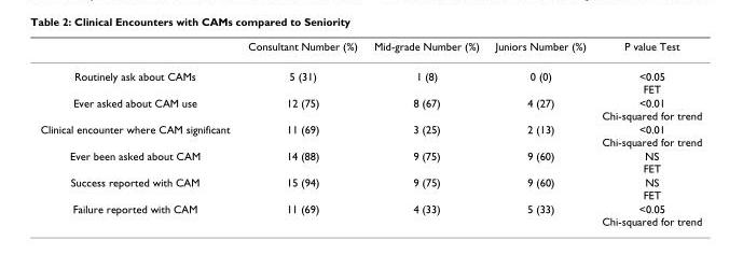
<table><thead><tr><td></td><td>Consultant Number (%)</td><td>Mid-grade Number (%)</td><td>Juniors Number (%)</td><td>P value Test</td></tr></thead><tbody><tr><td>Routinely ask about CAMs</td><td>5 (31)</td><td>1 (8)</td><td>0 (0)</td><td>&lt;0.05 FET</td></tr><tr><td>Ever asked about CAM use</td><td>12 (75)</td><td>8 (67)</td><td>4 (27)</td><td>&lt;0.01 Chi-squared for trend</td></tr><tr><td>Clinical encounter where CAM significant</td><td>11 (69)</td><td>3 (25)</td><td>2 (13)</td><td>&lt;0.01 Chi-squared for trend</td></tr><tr><td>Ever been asked about CAM</td><td>14 (88)</td><td>9 (75)</td><td>9 (60)</td><td>NS FET</td></tr><tr><td>Success reported with CAM</td><td>15 (94)</td><td>9 (75)</td><td>9 (60)</td><td>NS FET</td></tr><tr><td>Failure reported with CAM</td><td>11 (69)</td><td>4 (33)</td><td>5 (33)</td><td>&lt;0.05 Chi-squared for trend</td></tr></tbody></table>